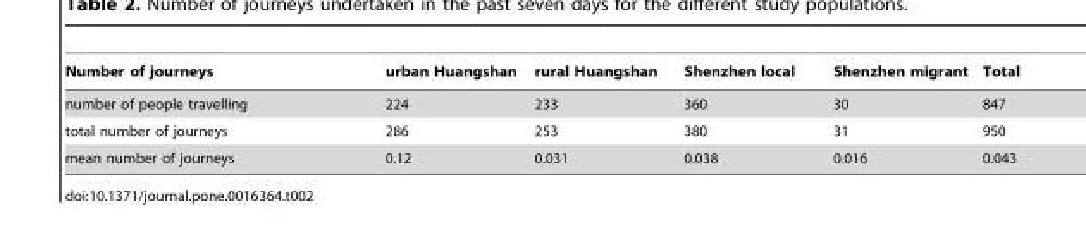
<table><thead><tr><td>Number of journeys</td><td>urban Huangshan</td><td>rural Huangshan</td><td>Shenzhen local</td><td>Shenzhen migrant</td><td>Total</td></tr></thead><tbody><tr><td>number of people travelling</td><td>224</td><td>233</td><td>360</td><td>30</td><td>847</td></tr><tr><td>total number of journeys</td><td>286</td><td>253</td><td>380</td><td>31</td><td>950</td></tr><tr><td>mean number of journeys</td><td>0.12</td><td>0.031</td><td>0.038</td><td>0.016</td><td>0.043</td></tr></tbody></table>